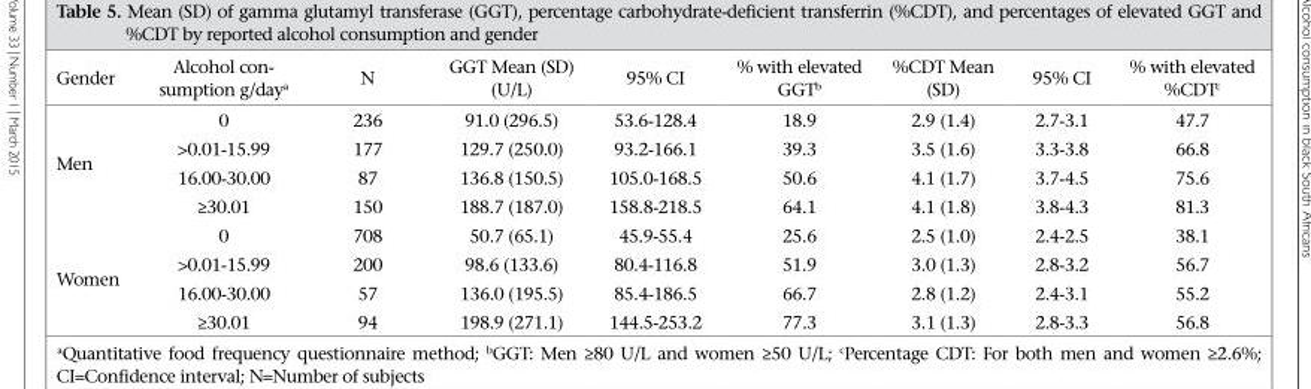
<table><thead><tr><td>Gender</td><td>Alcohol con- sumption g/daya</td><td>N</td><td>GGT Mean (SD) (U/L)</td><td>95% CI</td><td>% with elevated GGT<sup>b</sup></td><td>%CDT Mean (SD)</td><td>95% CI</td><td>% with elevated %CDT<sup>c</sup></td></tr></thead><tbody><tr><td rowspan="4">Men</td><td>0</td><td>236</td><td>91.0 (296.5)</td><td>53.6-128.4</td><td>18.9</td><td>2.9 (1.4)</td><td>2.7-3.1</td><td>47.7</td></tr><tr><td>&gt;0.01-15.99</td><td>177</td><td>129.7 (250.0)</td><td>93.2-166.1</td><td>39.3</td><td>3.5 (1.6)</td><td>3.3-3.8</td><td>66.8</td></tr><tr><td>16.00-30.00</td><td>87</td><td>136.8 (150.5)</td><td>105.0-168.5</td><td>50.6</td><td>4.1 (1.7)</td><td>3.7-4.5</td><td>75.6</td></tr><tr><td>≥30.01</td><td>150</td><td>188.7 (187.0)</td><td>158.8-218.5</td><td>64.1</td><td>4.1 (1.8)</td><td>3.8-4.3</td><td>81.3</td></tr><tr><td rowspan="4">Women</td><td>0</td><td>708</td><td>50.7 (65.1)</td><td>45.9-55.4</td><td>25.6</td><td>2.5 (1.0)</td><td>2.4-2.5</td><td>38.1</td></tr><tr><td>&gt;0.01-15.99</td><td>200</td><td>98.6 (133.6)</td><td>80.4-116.8</td><td>51.9</td><td>3.0 (1.3)</td><td>2.8-3.2</td><td>56.7</td></tr><tr><td>16.00-30.00</td><td>57</td><td>136.0 (195.5)</td><td>85.4-186.5</td><td>66.7</td><td>2.8 (1.2)</td><td>2.4-3.1</td><td>55.2</td></tr><tr><td>≥30.01</td><td>94</td><td>198.9 (271.1)</td><td>144.5-253.2</td><td>77.3</td><td>3.1 (1.3)</td><td>2.8-3.3</td><td>56.8</td></tr></tbody></table>